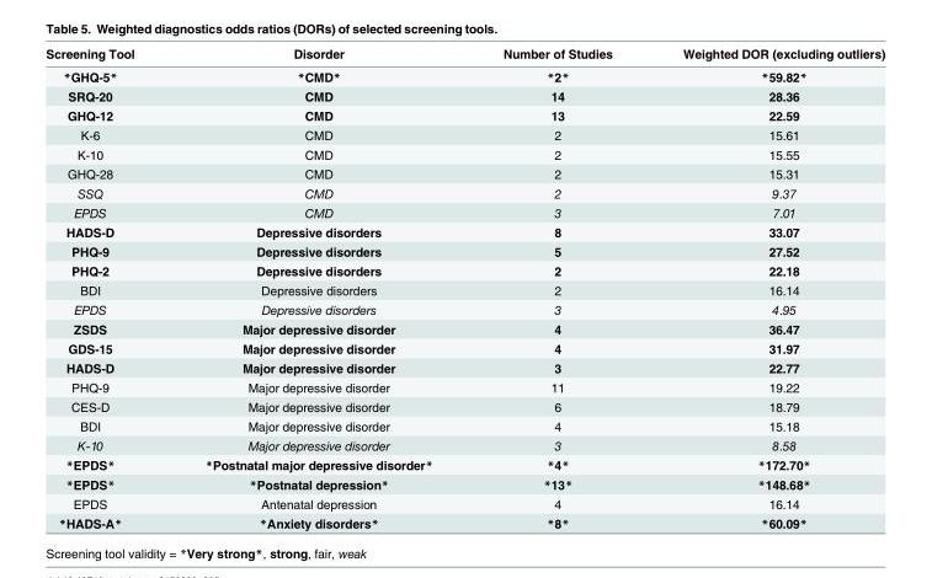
<table><thead><tr><td>Screening Tool</td><td>Disorder</td><td>Number of Studies</td><td>Weighted DOR (excluding outliers)</td></tr></thead><tbody><tr><td>*GHQ-5*</td><td>*CMD*</td><td>*2*</td><td>*59.82*</td></tr><tr><td>SRQ-20</td><td>CMD</td><td>14</td><td>28.36</td></tr><tr><td>GHQ-12</td><td>CMD</td><td>13</td><td>22.59</td></tr><tr><td>K-6</td><td>CMD</td><td>2</td><td>15.61</td></tr><tr><td>K-10</td><td>CMD</td><td>2</td><td>15.55</td></tr><tr><td>GHQ-28</td><td>CMD</td><td>2</td><td>15.31</td></tr><tr><td>SSQ</td><td>CMD</td><td>2</td><td>9.37</td></tr><tr><td>EPDS</td><td>CMD</td><td>3</td><td>7.01</td></tr><tr><td>HADS-D</td><td>Depressive disorders</td><td>8</td><td>33.07</td></tr><tr><td>PHQ-9</td><td>Depressive disorders</td><td>5</td><td>27.52</td></tr><tr><td>PHQ-2</td><td>Depressive disorders</td><td>2</td><td>22.18</td></tr><tr><td>BDI</td><td>Depressive disorders</td><td>2</td><td>16.14</td></tr><tr><td>EPDS</td><td>Depressive disorders</td><td>3</td><td>4.95</td></tr><tr><td>ZSDS</td><td>Major depressive disorder</td><td>4</td><td>36.47</td></tr><tr><td>GDS-15</td><td>Major depressive disorder</td><td>4</td><td>31.97</td></tr><tr><td>HADS-D</td><td>Major depressive disorder</td><td>3</td><td>22.77</td></tr><tr><td>PHQ-9</td><td>Major depressive disorder</td><td>11</td><td>19.22</td></tr><tr><td>CES-D</td><td>Major depressive disorder</td><td>6</td><td>18.79</td></tr><tr><td>BDI</td><td>Major depressive disorder</td><td>4</td><td>15.18</td></tr><tr><td>K-10</td><td>Major depressive disorder</td><td>3</td><td>8.58</td></tr><tr><td>*EPDS*</td><td>*Postnatal major depressive disorder*</td><td>*4*</td><td>*172.70*</td></tr><tr><td>*EPDS*</td><td>*Postnatal depression*</td><td>*13*</td><td>*148.68*</td></tr><tr><td>EPDS</td><td>Antenatal depression</td><td>4</td><td>16.14</td></tr><tr><td>*HADS-A*</td><td>*Anxiety disorders*</td><td>*8*</td><td>*60.09*</td></tr></tbody></table>